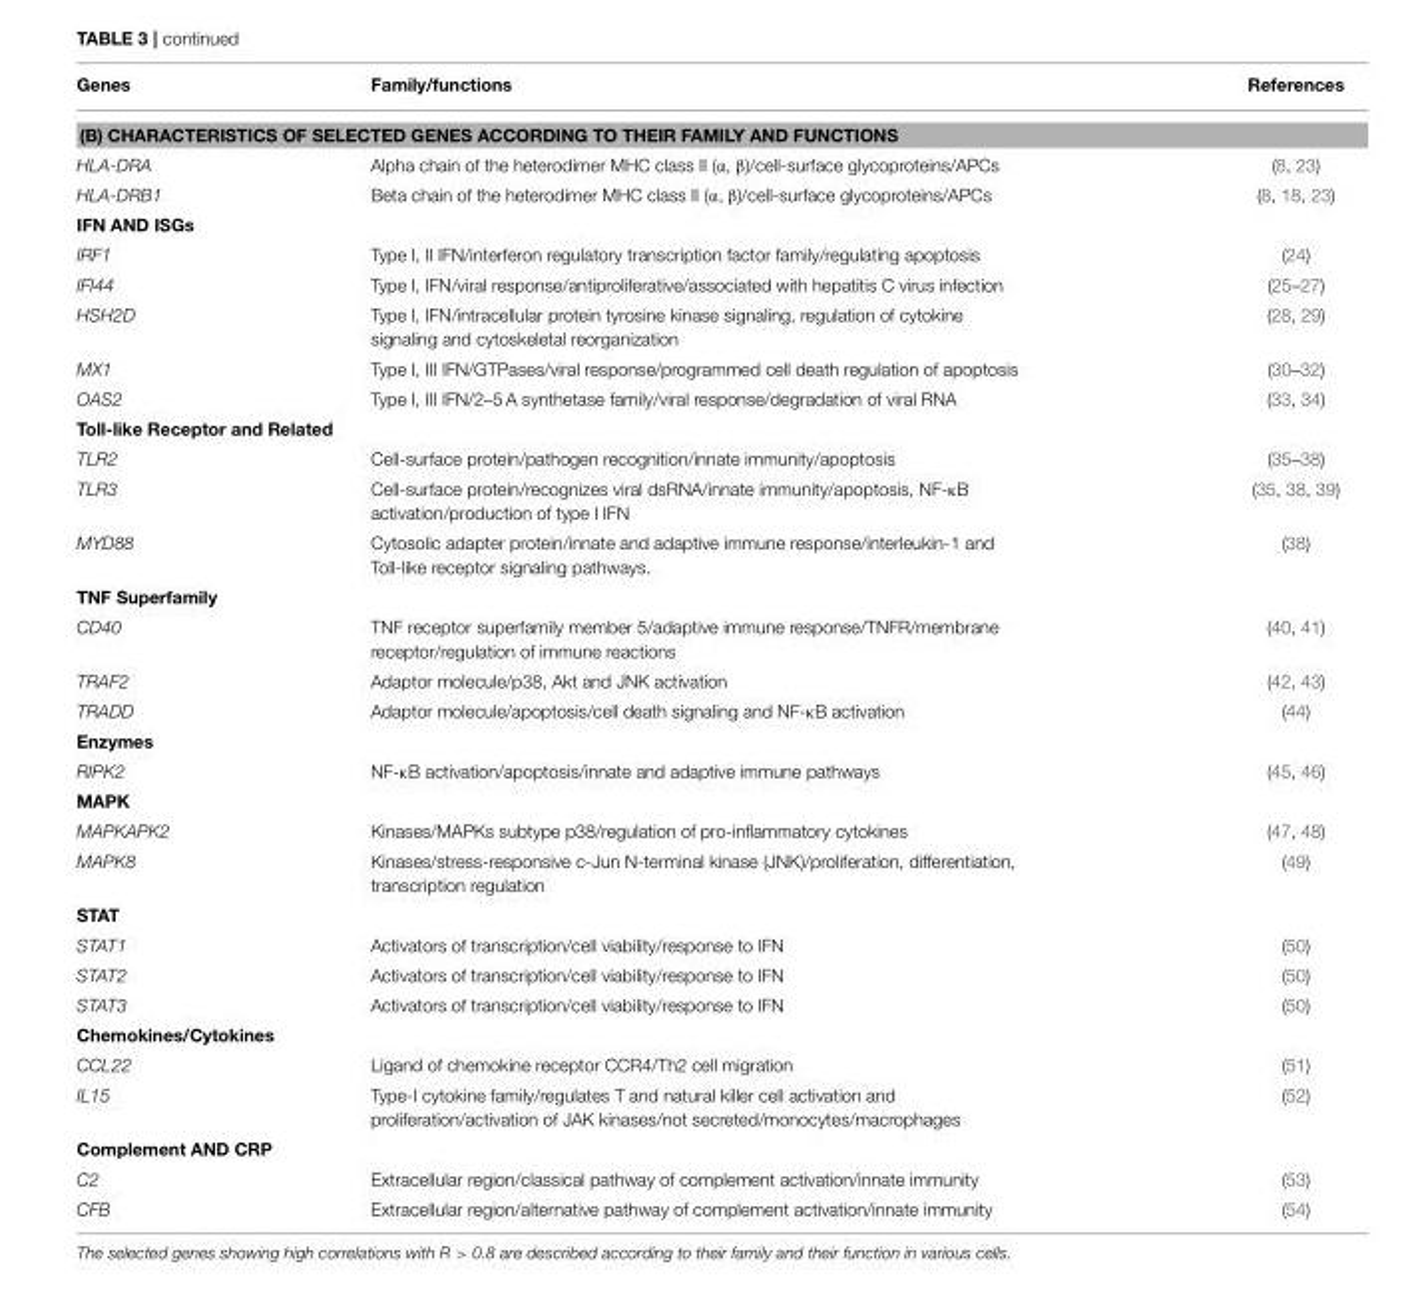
<table><thead><tr><td>Genes</td><td>Family/functions</td><td>References</td></tr></thead><tbody><tr><td colspan="3">(B) CHARACTERISTICS OF SELECTED GENES ACCORDING TO THEIR FAMILY AND FUNCTIONS</td></tr><tr><td>HLA-DRA</td><td>Alpha chain of the heterodimer MHC class II (α, β)/cell-surface glycoproteins/APCs</td><td>(8, 23)</td></tr><tr><td>HLA-DRB1</td><td>Beta chain of the heterodimer MHC class II (α, β)/cell-surface glycoproteins/APCs</td><td>(8, 18, 23)</td></tr><tr><td colspan="3">IFN AND ISGs</td></tr><tr><td>IRF1</td><td>Type I, II IFN/interferon regulatory transcription factor family/regulating apoptosis</td><td>(24)</td></tr><tr><td>IFI44</td><td>Type I, IFN/viral response/antiproliferative/associated with hepatitis C virus infection</td><td>(25–27)</td></tr><tr><td>HSH2D</td><td>Type I, IFN/intracellular protein tyrosine kinase signaling, regulation of cytokine signaling and cytoskeletal reorganization</td><td>(28, 29)</td></tr><tr><td>MX1</td><td>Type I, III IFN/GTPases/viral response/programmed cell death regulation of apoptosis</td><td>(30–32)</td></tr><tr><td>OAS2</td><td>Type I, III IFN/2–5 A synthetase family/viral response/degradation of viral RNA</td><td>(33, 34)</td></tr><tr><td colspan="3">Toll-like Receptor and Related</td></tr><tr><td>TLR2</td><td>Cell-surface protein/pathogen recognition/innate immunity/apoptosis</td><td>(35–38)</td></tr><tr><td>TLR3</td><td>Cell-surface protein/recognizes viral dsRNA/innate immunity/apoptosis, NF-κB activation/production of type I IFN</td><td>(35, 38, 39)</td></tr><tr><td>MYD88</td><td>Cytosolic adapter protein/innate and adaptive immune response/interleukin-1 and Toll-like receptor signaling pathways.</td><td>(38)</td></tr><tr><td colspan="3">TNF Superfamily</td></tr><tr><td>CD40</td><td>TNF receptor superfamily member 5/adaptive immune response/TNFR/membrane receptor/regulation of immune reactions</td><td>(40, 41)</td></tr><tr><td>TRAF2</td><td>Adaptor molecule/p38, Akt and JNK activation</td><td>(42, 43)</td></tr><tr><td>TRADD</td><td>Adaptor molecule/apoptosis/cell death signaling and NF-κB activation</td><td>(44)</td></tr><tr><td colspan="3">Enzymes</td></tr><tr><td>RIPK2</td><td>NF-κB activation/apoptosis/innate and adaptive immune pathways</td><td>(45, 46)</td></tr><tr><td colspan="3">MAPK</td></tr><tr><td>MAPKAPK2</td><td>Kinases/MAPKs subtype p38/regulation of pro-inflammatory cytokines</td><td>(47, 48)</td></tr><tr><td>MAPK8</td><td>Kinases/stress-responsive c-Jun N-terminal kinase (JNK)/proliferation, differentiation, transcription regulation</td><td>(49)</td></tr><tr><td colspan="3">STAT</td></tr><tr><td>STAT1</td><td>Activators of transcription/cell viability/response to IFN</td><td>(50)</td></tr><tr><td>STAT2</td><td>Activators of transcription/cell viability/response to IFN</td><td>(50)</td></tr><tr><td>STAT3</td><td>Activators of transcription/cell viability/response to IFN</td><td>(50)</td></tr><tr><td colspan="3">Chemokines/Cytokines</td></tr><tr><td>CCL22</td><td>Ligand of chemokine receptor CCR4/Th2 cell migration</td><td>(51)</td></tr><tr><td>IL15</td><td>Type-I cytokine family/regulates T and natural killer cell activation and proliferation/activation of JAK kinases/not secreted/monocytes/macrophages</td><td>(52)</td></tr><tr><td colspan="3">Complement AND CRP</td></tr><tr><td>C2</td><td>Extracellular region/classical pathway of complement activation/innate immunity</td><td>(53)</td></tr><tr><td>CFB</td><td>Extracellular region/alternative pathway of complement activation/innate immunity</td><td>(54)</td></tr></tbody></table>